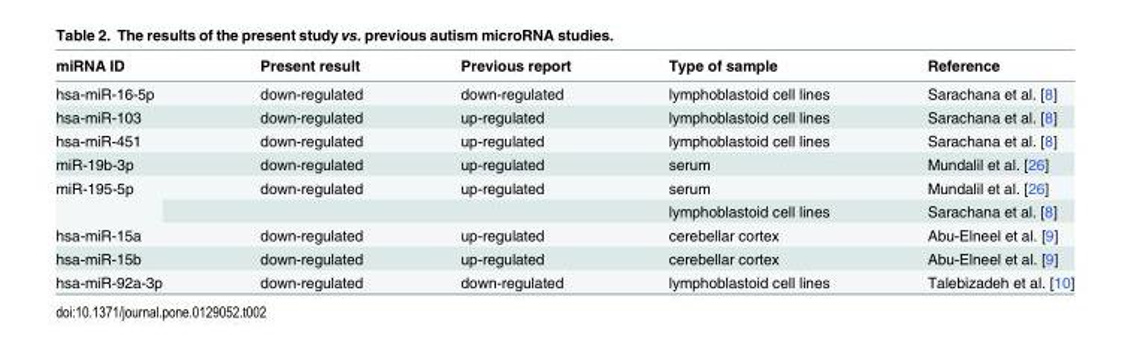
<table><thead><tr><td>miRNA ID</td><td>Present result</td><td>Previous report</td><td>Type of sample</td><td>Reference</td></tr></thead><tbody><tr><td>hsa-miR-16-5p</td><td>down-regulated</td><td>down-regulated</td><td>lymphoblastoid cell lines</td><td>Sarachana et al. [8]</td></tr><tr><td>hsa-miR-103</td><td>down-regulated</td><td>up-regulated</td><td>lymphoblastoid cell lines</td><td>Sarachana et al. [8]</td></tr><tr><td>hsa-miR-451</td><td>down-regulated</td><td>up-regulated</td><td>lymphoblastoid cell lines</td><td>Sarachana et al. [8]</td></tr><tr><td>miR-19b-3p</td><td>down-regulated</td><td>up-regulated</td><td>serum</td><td>Mundalil et al. [26]</td></tr><tr><td rowspan="2">miR-195-5p</td><td>down-regulated</td><td>up-regulated</td><td>serum</td><td>Mundalil et al. [26]</td></tr><tr><td></td><td></td><td>lymphoblastoid cell lines</td><td>Sarachana et al. [8]</td></tr><tr><td>hsa-miR-15a</td><td>down-regulated</td><td>up-regulated</td><td>cerebellar cortex</td><td>Abu-Elneel et al. [9]</td></tr><tr><td>hsa-miR-15b</td><td>down-regulated</td><td>up-regulated</td><td>cerebellar cortex</td><td>Abu-Elneel et al. [9]</td></tr><tr><td>hsa-miR-92a-3p</td><td>down-regulated</td><td>down-regulated</td><td>lymphoblastoid cell lines</td><td>Talebizadeh et al. [10]</td></tr></tbody></table>